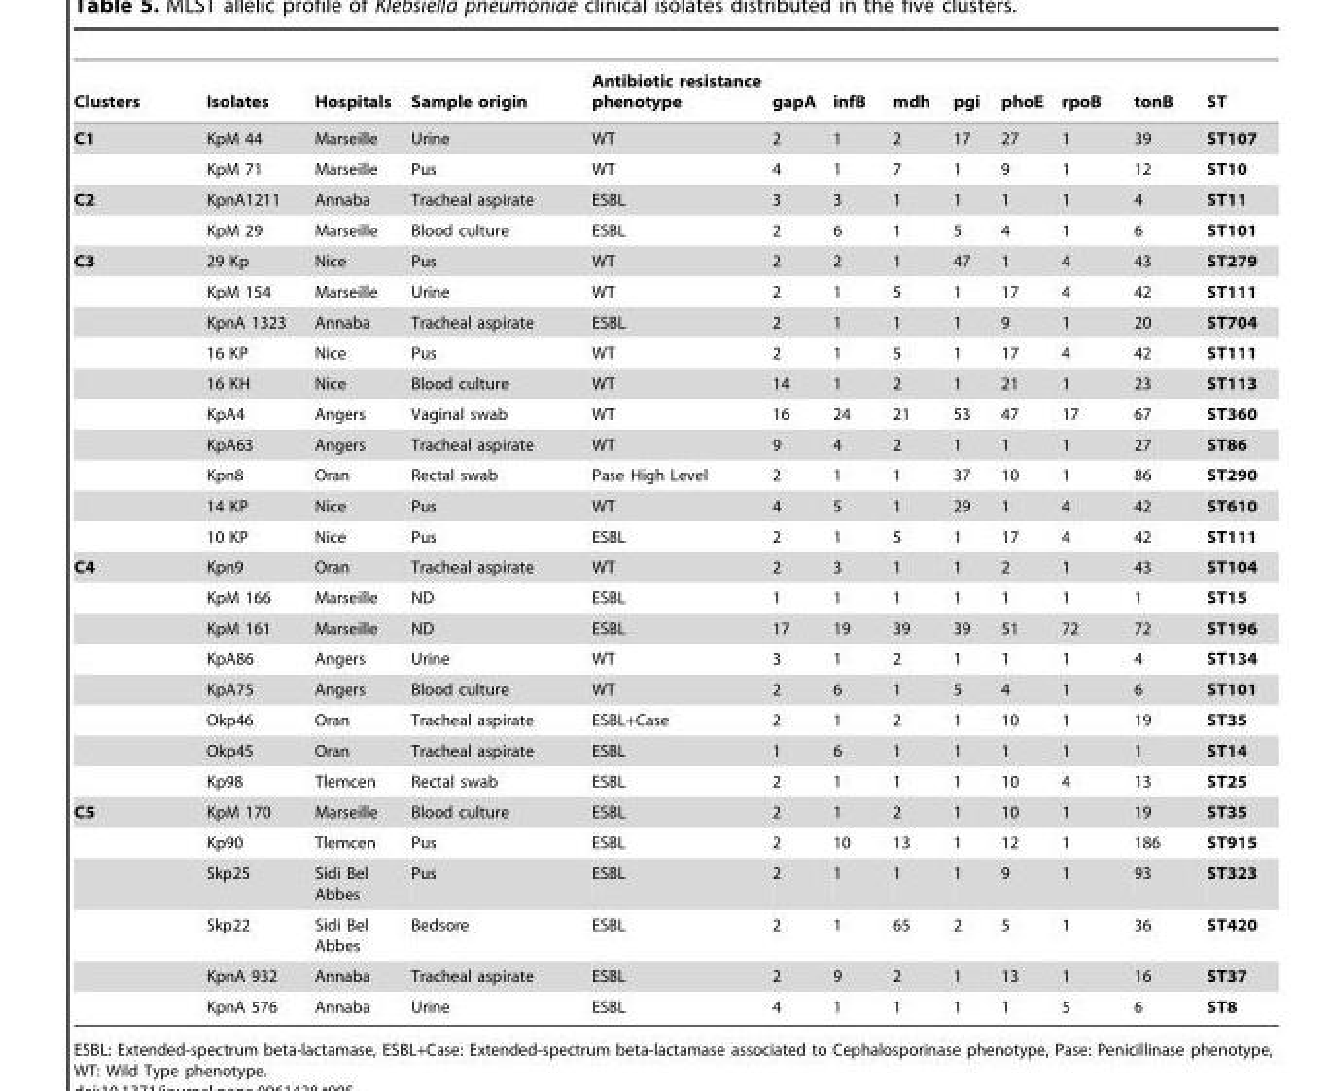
<table><thead><tr><td>Clusters</td><td>Isolates</td><td>Hospitals</td><td>Sample origin</td><td>Antibiotic resistance phenotype</td><td>gapA</td><td>infB</td><td>mdh</td><td>pgi</td><td>phoE</td><td>rpoB</td><td>tonB</td><td>ST</td></tr></thead><tbody><tr><td rowspan="2">C1</td><td>KpM 44</td><td>Marseille</td><td>Urine</td><td>WT</td><td>2</td><td>1</td><td>2</td><td>17</td><td>27</td><td>1</td><td>39</td><td>ST107</td></tr><tr><td>KpM 71</td><td>Marseille</td><td>Pus</td><td>WT</td><td>4</td><td>1</td><td>7</td><td>1</td><td>9</td><td>1</td><td>12</td><td>ST10</td></tr><tr><td rowspan="2">C2</td><td>KpnA1211</td><td>Annaba</td><td>Tracheal aspirate</td><td>ESBL</td><td>3</td><td>3</td><td>1</td><td>1</td><td>1</td><td>1</td><td>4</td><td>ST11</td></tr><tr><td>KpM 29</td><td>Marseille</td><td>Blood culture</td><td>ESBL</td><td>2</td><td>6</td><td>1</td><td>5</td><td>4</td><td>1</td><td>6</td><td>ST101</td></tr><tr><td rowspan="10">C3</td><td>29 Kp</td><td>Nice</td><td>Pus</td><td>WT</td><td>2</td><td>2</td><td>1</td><td>47</td><td>1</td><td>4</td><td>43</td><td>ST279</td></tr><tr><td>KpM 154</td><td>Marseille</td><td>Urine</td><td>WT</td><td>2</td><td>1</td><td>5</td><td>1</td><td>17</td><td>4</td><td>42</td><td>ST111</td></tr><tr><td>KpnA 1323</td><td>Annaba</td><td>Tracheal aspirate</td><td>ESBL</td><td>2</td><td>1</td><td>1</td><td>1</td><td>9</td><td>1</td><td>20</td><td>ST704</td></tr><tr><td>16 KP</td><td>Nice</td><td>Pus</td><td>WT</td><td>2</td><td>1</td><td>5</td><td>1</td><td>17</td><td>4</td><td>42</td><td>ST111</td></tr><tr><td>16 KH</td><td>Nice</td><td>Blood culture</td><td>WT</td><td>14</td><td>1</td><td>2</td><td>1</td><td>21</td><td>1</td><td>23</td><td>ST113</td></tr><tr><td>KpA4</td><td>Angers</td><td>Vaginal swab</td><td>WT</td><td>16</td><td>24</td><td>21</td><td>53</td><td>47</td><td>17</td><td>67</td><td>ST360</td></tr><tr><td>KpA63</td><td>Angers</td><td>Tracheal aspirate</td><td>WT</td><td>9</td><td>4</td><td>2</td><td>1</td><td>1</td><td>1</td><td>27</td><td>ST86</td></tr><tr><td>Kpn8</td><td>Oran</td><td>Rectal swab</td><td>Pase High Level</td><td>2</td><td>1</td><td>1</td><td>37</td><td>10</td><td>1</td><td>86</td><td>ST290</td></tr><tr><td>14 KP</td><td>Nice</td><td>Pus</td><td>WT</td><td>4</td><td>5</td><td>1</td><td>29</td><td>1</td><td>4</td><td>42</td><td>ST610</td></tr><tr><td>10 KP</td><td>Nice</td><td>Pus</td><td>ESBL</td><td>2</td><td>1</td><td>5</td><td>1</td><td>17</td><td>4</td><td>42</td><td>ST111</td></tr><tr><td rowspan="8">C4</td><td>Kpn9</td><td>Oran</td><td>Tracheal aspirate</td><td>WT</td><td>2</td><td>3</td><td>1</td><td>1</td><td>2</td><td>1</td><td>43</td><td>ST104</td></tr><tr><td>KpM 166</td><td>Marseille</td><td>ND</td><td>ESBL</td><td>1</td><td>1</td><td>1</td><td>1</td><td>1</td><td>1</td><td>1</td><td>ST15</td></tr><tr><td>KpM 161</td><td>Marseille</td><td>ND</td><td>ESBL</td><td>17</td><td>19</td><td>39</td><td>39</td><td>51</td><td>72</td><td>72</td><td>ST196</td></tr><tr><td>KpA86</td><td>Angers</td><td>Urine</td><td>WT</td><td>3</td><td>1</td><td>2</td><td>1</td><td>1</td><td>1</td><td>4</td><td>ST134</td></tr><tr><td>KpA75</td><td>Angers</td><td>Blood culture</td><td>WT</td><td>2</td><td>6</td><td>1</td><td>5</td><td>4</td><td>1</td><td>6</td><td>ST101</td></tr><tr><td>Okp46</td><td>Oran</td><td>Tracheal aspirate</td><td>ESBL+Case</td><td>2</td><td>1</td><td>2</td><td>1</td><td>10</td><td>1</td><td>19</td><td>ST35</td></tr><tr><td>Okp45</td><td>Oran</td><td>Tracheal aspirate</td><td>ESBL</td><td>1</td><td>6</td><td>1</td><td>1</td><td>1</td><td>1</td><td>1</td><td>ST14</td></tr><tr><td>Kp98</td><td>Tlemcen</td><td>Rectal swab</td><td>ESBL</td><td>2</td><td>1</td><td>1</td><td>1</td><td>10</td><td>4</td><td>13</td><td>ST25</td></tr><tr><td rowspan="6">C5</td><td>KpM 170</td><td>Marseille</td><td>Blood culture</td><td>ESBL</td><td>2</td><td>1</td><td>2</td><td>1</td><td>10</td><td>1</td><td>19</td><td>ST35</td></tr><tr><td>Kp90</td><td>Tlemcen</td><td>Pus</td><td>ESBL</td><td>2</td><td>10</td><td>13</td><td>1</td><td>12</td><td>1</td><td>186</td><td>ST915</td></tr><tr><td>Skp25</td><td>Sidi Bel Abbes</td><td>Pus</td><td>ESBL</td><td>2</td><td>1</td><td>1</td><td>1</td><td>9</td><td>1</td><td>93</td><td>ST323</td></tr><tr><td>Skp22</td><td>Sidi Bel Abbes</td><td>Bedsore</td><td>ESBL</td><td>2</td><td>1</td><td>65</td><td>2</td><td>5</td><td>1</td><td>36</td><td>ST420</td></tr><tr><td>KpnA 932</td><td>Annaba</td><td>Tracheal aspirate</td><td>ESBL</td><td>2</td><td>9</td><td>2</td><td>1</td><td>13</td><td>1</td><td>16</td><td>ST37</td></tr><tr><td>KpnA 576</td><td>Annaba</td><td>Urine</td><td>ESBL</td><td>4</td><td>1</td><td>1</td><td>1</td><td>1</td><td>5</td><td>6</td><td>ST8</td></tr></tbody></table>